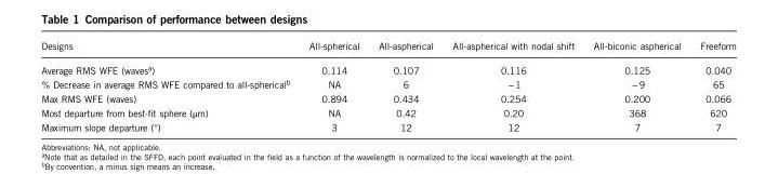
<table><thead><tr><td>Designs</td><td>All-spherical</td><td>All-aspherical</td><td>All-aspherical with nodal shift</td><td>All-biconic aspherical</td><td>Freeform</td></tr></thead><tbody><tr><td>Average RMS WFE (waves<sup>a</sup>)</td><td>0.114</td><td>0.107</td><td>0.116</td><td>0.125</td><td>0.040</td></tr><tr><td>% Decrease in average RMS WFE compared to all-spherical<sup>b</sup></td><td>NA</td><td>6</td><td>− 1</td><td>− 9</td><td>65</td></tr><tr><td>Max RMS WFE (waves)</td><td>0.894</td><td>0.434</td><td>0.254</td><td>0.200</td><td>0.066</td></tr><tr><td>Most departure from best-fit sphere (μm)</td><td>NA</td><td>0.42</td><td>0.20</td><td>368</td><td>620</td></tr><tr><td>Maximum slope departure (°)</td><td>3</td><td>12</td><td>12</td><td>7</td><td>7</td></tr></tbody></table>